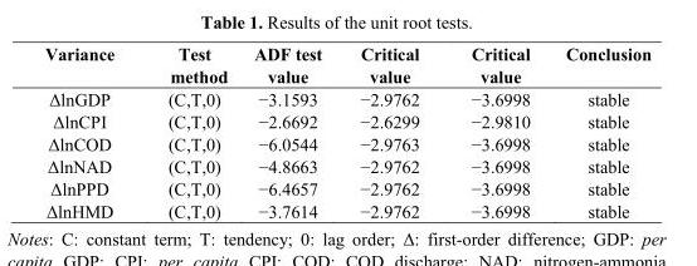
<table><thead><tr><td>Variance</td><td>Test method</td><td>ADF test value</td><td>Critical value</td><td>Critical value</td><td>Conclusion</td></tr></thead><tbody><tr><td>ΔlnGDP</td><td>(C,T,0)</td><td>−3.1593</td><td>−2.9762</td><td>−3.6998</td><td>stable</td></tr><tr><td>ΔlnCPI</td><td>(C,T,0)</td><td>−2.6692</td><td>−2.6299</td><td>−2.9810</td><td>stable</td></tr><tr><td>ΔlnCOD</td><td>(C,T,0)</td><td>−6.0544</td><td>−2.9763</td><td>−3.6998</td><td>stable</td></tr><tr><td>ΔlnNAD</td><td>(C,T,0)</td><td>−4.8663</td><td>−2.9762</td><td>−3.6998</td><td>stable</td></tr><tr><td>ΔlnPPD</td><td>(C,T,0)</td><td>−6.4657</td><td>−2.9762</td><td>−3.6998</td><td>stable</td></tr><tr><td>ΔlnHMD</td><td>(C,T,0)</td><td>−3.7614</td><td>−2.9762</td><td>−3.6998</td><td>stable</td></tr></tbody></table>